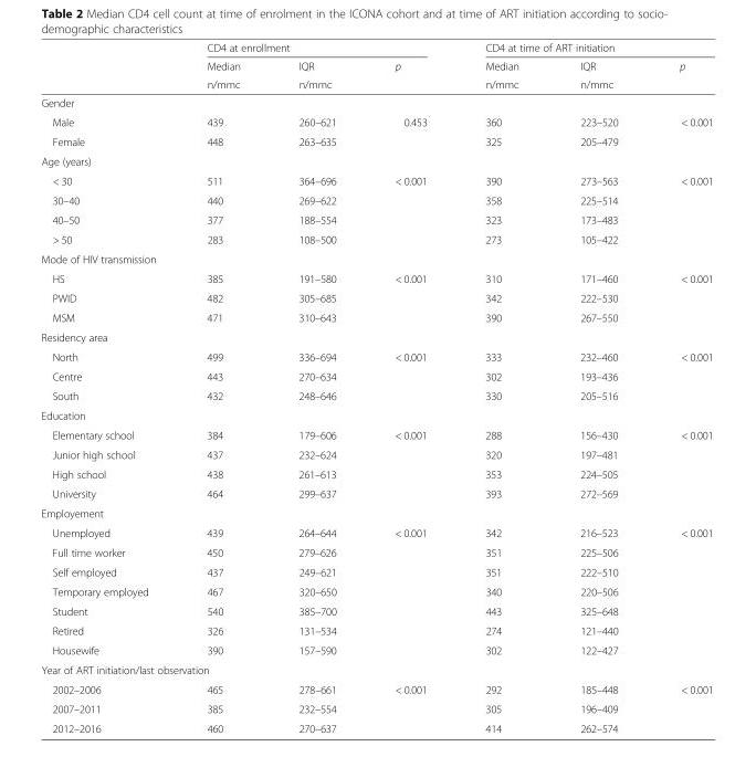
<table><thead><tr><td rowspan="3"></td><td colspan="3">CD4 at enrollment</td><td colspan="3">CD4 at time of ART initiation</td></tr><tr><td rowspan="2">Median n/mmc</td><td rowspan="2">IQR n/mmc</td><td rowspan="2">p</td><td rowspan="2">Median n/mmc</td><td rowspan="2">IQR n/mmc</td><td rowspan="2">p</td></tr><tr></tr></thead><tbody><tr><td colspan="7">Gender</td></tr><tr><td>Male</td><td>439</td><td>260–621</td><td rowspan="2">0.453</td><td>360</td><td>223–520</td><td rowspan="2">&lt; 0.001</td></tr><tr><td>Female</td><td>448</td><td>263–635</td><td>325</td><td>205–479</td></tr><tr><td colspan="7">Age (years)</td></tr><tr><td>&lt; 30</td><td>511</td><td>364–696</td><td rowspan="4">&lt; 0.001</td><td>390</td><td>273–563</td><td rowspan="4">&lt; 0.001</td></tr><tr><td>30–40</td><td>440</td><td>269–622</td><td>358</td><td>225–514</td></tr><tr><td>40–50</td><td>377</td><td>188–554</td><td>323</td><td>173–483</td></tr><tr><td>&gt; 50</td><td>283</td><td>108–500</td><td>273</td><td>105–422</td></tr><tr><td colspan="7">Mode of HIV transmission</td></tr><tr><td>HS</td><td>385</td><td>191–580</td><td rowspan="3">&lt; 0.001</td><td>310</td><td>171–460</td><td rowspan="3">&lt; 0.001</td></tr><tr><td>PWID</td><td>482</td><td>305–685</td><td>342</td><td>222–530</td></tr><tr><td>MSM</td><td>471</td><td>310–643</td><td>390</td><td>267–550</td></tr><tr><td colspan="7">Residency area</td></tr><tr><td>North</td><td>499</td><td>336–694</td><td rowspan="3">&lt; 0.001</td><td>333</td><td>232–460</td><td rowspan="3">&lt; 0.001</td></tr><tr><td>Centre</td><td>443</td><td>270–634</td><td>302</td><td>193–436</td></tr><tr><td>South</td><td>432</td><td>248–646</td><td>330</td><td>205–516</td></tr><tr><td colspan="7">Education</td></tr><tr><td>Elementary school</td><td>384</td><td>179–606</td><td rowspan="4">&lt; 0.001</td><td>288</td><td>156–430</td><td rowspan="4">&lt; 0.001</td></tr><tr><td>Junior high school</td><td>437</td><td>232–624</td><td>320</td><td>197–481</td></tr><tr><td>High school</td><td>438</td><td>261–613</td><td>353</td><td>224–505</td></tr><tr><td>University</td><td>464</td><td>299–637</td><td>393</td><td>272–569</td></tr><tr><td colspan="7">Employement</td></tr><tr><td>Unemployed</td><td>439</td><td>264–644</td><td rowspan="7">&lt; 0.001</td><td>342</td><td>216–523</td><td rowspan="7">&lt; 0.001</td></tr><tr><td>Full time worker</td><td>450</td><td>279–626</td><td>351</td><td>225–506</td></tr><tr><td>Self employed</td><td>437</td><td>249–621</td><td>351</td><td>222–510</td></tr><tr><td>Temporary employed</td><td>467</td><td>320–650</td><td>340</td><td>220–506</td></tr><tr><td>Student</td><td>540</td><td>385–700</td><td>443</td><td>325–648</td></tr><tr><td>Retired</td><td>326</td><td>131–534</td><td>274</td><td>121–440</td></tr><tr><td>Housewife</td><td>390</td><td>157–590</td><td>302</td><td>122–427</td></tr><tr><td colspan="7">Year of ART initiation/last observation</td></tr><tr><td>2002–2006</td><td>465</td><td>278–661</td><td rowspan="3">&lt; 0.001</td><td>292</td><td>185–448</td><td rowspan="3">&lt; 0.001</td></tr><tr><td>2007–2011</td><td>385</td><td>232–554</td><td>305</td><td>196–409</td></tr><tr><td>2012–2016</td><td>460</td><td>270–637</td><td>414</td><td>262–574</td></tr></tbody></table>